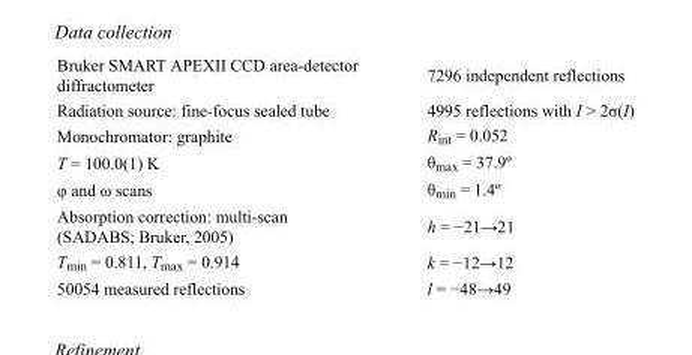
<table><tbody><tr><td>Bruker SMART APEXII CCD area-detector diffractometer</td><td>7296 independent reflections</td></tr><tr><td>Radiation source: fine-focus sealed tube</td><td>4995 reflections with I &gt; 2σ(I)</td></tr><tr><td>Monochromator: graphite</td><td>R<sub>int</sub> = 0.052</td></tr><tr><td>T = 100.0(1) K</td><td>θ<sub>max</sub> = 37.9º</td></tr><tr><td>φ and ω scans</td><td>θ<sub>min</sub> = 1.4º</td></tr><tr><td>Absorption correction: multi-scan (SADABS; Bruker, 2005)</td><td>h = −21→21</td></tr><tr><td>T<sub>min</sub> = 0.811, T<sub>max</sub> = 0.914</td><td>k = −12→12</td></tr><tr><td>50054 measured reflections</td><td>l = −48→49</td></tr></tbody></table>